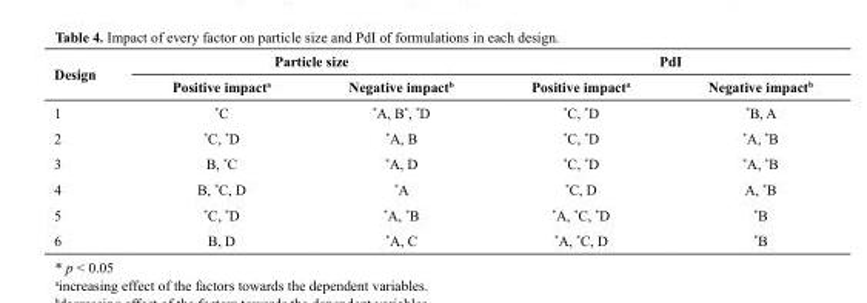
<table><thead><tr><td rowspan="2">Design</td><td colspan="2">Particle size</td><td colspan="2">PdI</td></tr><tr><td>Positive impacta</td><td>Negative impactb</td><td>Positive impacta</td><td>Negative impactb</td></tr></thead><tbody><tr><td>1</td><td>*C</td><td>*A, B*, *D</td><td>*C, *D</td><td>*B, A</td></tr><tr><td>2</td><td>*C, *D</td><td>*A, B</td><td>*C, *D</td><td>*A, *B</td></tr><tr><td>3</td><td>B, *C</td><td>*A, D</td><td>*C, *D</td><td>*A, *B</td></tr><tr><td>4</td><td>B, *C, D</td><td>*A</td><td>*C, D</td><td>A, *B</td></tr><tr><td>5</td><td>*C, *D</td><td>*A, *B</td><td>*A, *C, *D</td><td>*B</td></tr><tr><td>6</td><td>B, D</td><td>*A, C</td><td>*A, *C, D</td><td>*B</td></tr></tbody></table>